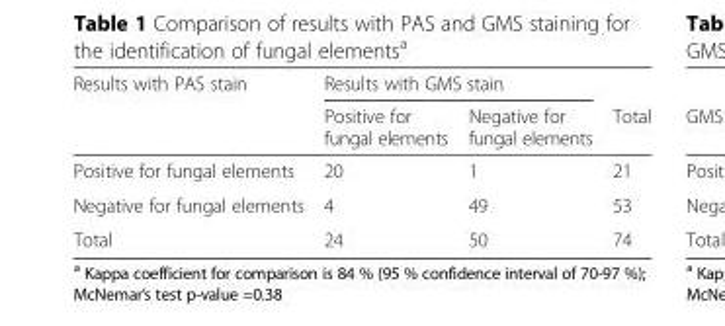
<table><thead><tr><td rowspan="2">Results with PAS stain</td><td colspan="2">Results with GMS stain</td><td rowspan="2">Total</td></tr><tr><td>Positive for fungal elements</td><td>Negative for fungal elements</td></tr></thead><tbody><tr><td>Positive for fungal elements</td><td>20</td><td>1</td><td>21</td></tr><tr><td>Negative for fungal elements</td><td>4</td><td>49</td><td>53</td></tr><tr><td>Total</td><td>24</td><td>50</td><td>74</td></tr></tbody></table>